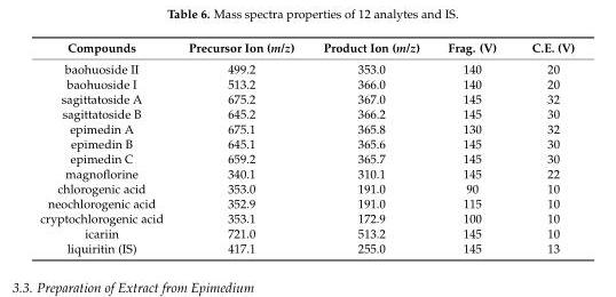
<table><thead><tr><td>Compounds</td><td>Precursor Ion (m/z)</td><td>Product Ion (m/z)</td><td>Frag. (V)</td><td>C.E. (V)</td></tr></thead><tbody><tr><td>baohuoside II</td><td>499.2</td><td>353.0</td><td>140</td><td>20</td></tr><tr><td>baohuoside I</td><td>513.2</td><td>366.0</td><td>140</td><td>20</td></tr><tr><td>sagittatoside A</td><td>675.2</td><td>367.0</td><td>145</td><td>32</td></tr><tr><td>sagittatoside B</td><td>645.2</td><td>366.2</td><td>145</td><td>30</td></tr><tr><td>epimedin A</td><td>675.1</td><td>365.8</td><td>130</td><td>32</td></tr><tr><td>epimedin B</td><td>645.1</td><td>365.6</td><td>145</td><td>30</td></tr><tr><td>epimedin C</td><td>659.2</td><td>365.7</td><td>145</td><td>30</td></tr><tr><td>magnoflorine</td><td>340.1</td><td>310.1</td><td>145</td><td>22</td></tr><tr><td>chlorogenic acid</td><td>353.0</td><td>191.0</td><td>90</td><td>10</td></tr><tr><td>neochlorogenic acid</td><td>352.9</td><td>191.0</td><td>115</td><td>10</td></tr><tr><td>cryptochlorogenic acid</td><td>353.1</td><td>172.9</td><td>100</td><td>10</td></tr><tr><td>icariin</td><td>721.0</td><td>513.2</td><td>145</td><td>10</td></tr><tr><td>liquiritin (IS)</td><td>417.1</td><td>255.0</td><td>145</td><td>13</td></tr></tbody></table>